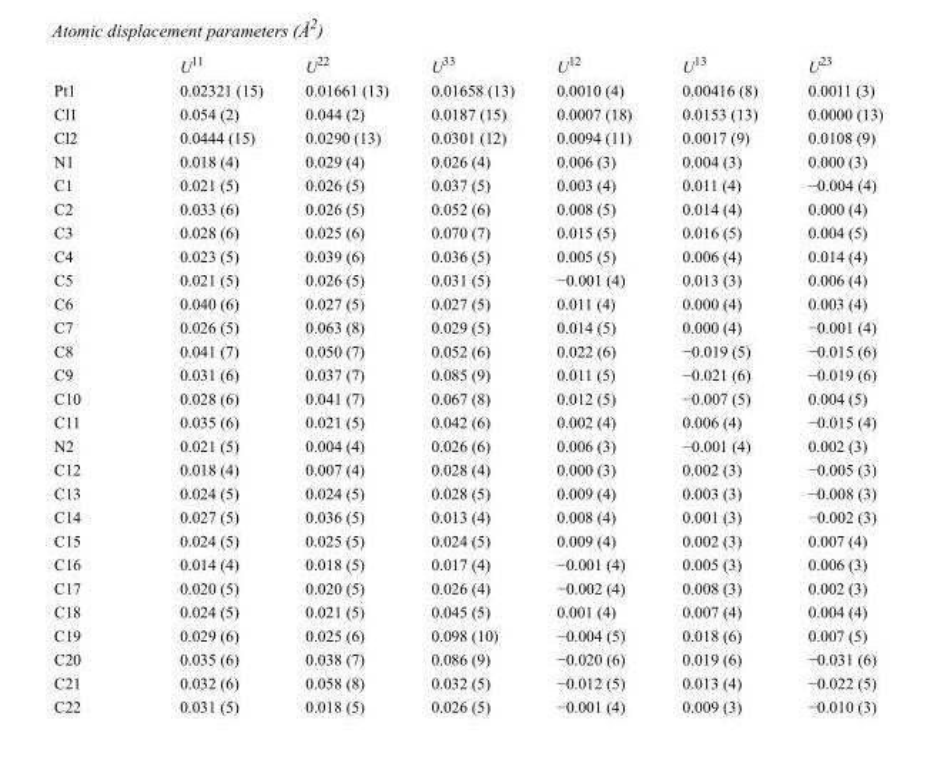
<table><thead><tr><td></td><td>U<sup>11</sup></td><td>U<sup>22</sup></td><td>U<sup>33</sup></td><td>U<sup>12</sup></td><td>U<sup>13</sup></td><td>U<sup>23</sup></td></tr></thead><tbody><tr><td>Pt1</td><td>0.02321 (15)</td><td>0.01661 (13)</td><td>0.01658 (13)</td><td>0.0010 (4)</td><td>0.00416 (8)</td><td>0.0011 (3)</td></tr><tr><td>Cl1</td><td>0.054 (2)</td><td>0.044 (2)</td><td>0.0187 (15)</td><td>0.0007 (18)</td><td>0.0153 (13)</td><td>0.0000 (13)</td></tr><tr><td>Cl2</td><td>0.0444 (15)</td><td>0.0290 (13)</td><td>0.0301 (12)</td><td>0.0094 (11)</td><td>0.0017 (9)</td><td>0.0108 (9)</td></tr><tr><td>N1</td><td>0.018 (4)</td><td>0.029 (4)</td><td>0.026 (4)</td><td>0.006 (3)</td><td>0.004 (3)</td><td>0.000 (3)</td></tr><tr><td>C1</td><td>0.021 (5)</td><td>0.026 (5)</td><td>0.037 (5)</td><td>0.003 (4)</td><td>0.011 (4)</td><td>−0.004 (4)</td></tr><tr><td>C2</td><td>0.033 (6)</td><td>0.026 (5)</td><td>0.052 (6)</td><td>0.008 (5)</td><td>0.014 (4)</td><td>0.000 (4)</td></tr><tr><td>C3</td><td>0.028 (6)</td><td>0.025 (6)</td><td>0.070 (7)</td><td>0.015 (5)</td><td>0.016 (5)</td><td>0.004 (5)</td></tr><tr><td>C4</td><td>0.023 (5)</td><td>0.039 (6)</td><td>0.036 (5)</td><td>0.005 (5)</td><td>0.006 (4)</td><td>0.014 (4)</td></tr><tr><td>C5</td><td>0.021 (5)</td><td>0.026 (5)</td><td>0.031 (5)</td><td>−0.001 (4)</td><td>0.013 (3)</td><td>0.006 (4)</td></tr><tr><td>C6</td><td>0.040 (6)</td><td>0.027 (5)</td><td>0.027 (5)</td><td>0.011 (4)</td><td>0.000 (4)</td><td>0.003 (4)</td></tr><tr><td>C7</td><td>0.026 (5)</td><td>0.063 (8)</td><td>0.029 (5)</td><td>0.014 (5)</td><td>0.000 (4)</td><td>−0.001 (4)</td></tr><tr><td>C8</td><td>0.041 (7)</td><td>0.050 (7)</td><td>0.052 (6)</td><td>0.022 (6)</td><td>−0.019 (5)</td><td>−0.015 (6)</td></tr><tr><td>C9</td><td>0.031 (6)</td><td>0.037 (7)</td><td>0.085 (9)</td><td>0.011 (5)</td><td>−0.021 (6)</td><td>−0.019 (6)</td></tr><tr><td>C10</td><td>0.028 (6)</td><td>0.041 (7)</td><td>0.067 (8)</td><td>0.012 (5)</td><td>−0.007 (5)</td><td>0.004 (5)</td></tr><tr><td>C11</td><td>0.035 (6)</td><td>0.021 (5)</td><td>0.042 (6)</td><td>0.002 (4)</td><td>0.006 (4)</td><td>−0.015 (4)</td></tr><tr><td>N2</td><td>0.021 (5)</td><td>0.004 (4)</td><td>0.026 (6)</td><td>0.006 (3)</td><td>−0.001 (4)</td><td>0.002 (3)</td></tr><tr><td>C12</td><td>0.018 (4)</td><td>0.007 (4)</td><td>0.028 (4)</td><td>0.000 (3)</td><td>0.002 (3)</td><td>−0.005 (3)</td></tr><tr><td>C13</td><td>0.024 (5)</td><td>0.024 (5)</td><td>0.028 (5)</td><td>0.009 (4)</td><td>0.003 (3)</td><td>−0.008 (3)</td></tr><tr><td>C14</td><td>0.027 (5)</td><td>0.036 (5)</td><td>0.013 (4)</td><td>0.008 (4)</td><td>0.001 (3)</td><td>−0.002 (3)</td></tr><tr><td>C15</td><td>0.024 (5)</td><td>0.025 (5)</td><td>0.024 (5)</td><td>0.009 (4)</td><td>0.002 (3)</td><td>0.007 (4)</td></tr><tr><td>C16</td><td>0.014 (4)</td><td>0.018 (5)</td><td>0.017 (4)</td><td>−0.001 (4)</td><td>0.005 (3)</td><td>0.006 (3)</td></tr><tr><td>C17</td><td>0.020 (5)</td><td>0.020 (5)</td><td>0.026 (4)</td><td>−0.002 (4)</td><td>0.008 (3)</td><td>0.002 (3)</td></tr><tr><td>C18</td><td>0.024 (5)</td><td>0.021 (5)</td><td>0.045 (5)</td><td>0.001 (4)</td><td>0.007 (4)</td><td>0.004 (4)</td></tr><tr><td>C19</td><td>0.029 (6)</td><td>0.025 (6)</td><td>0.098 (10)</td><td>−0.004 (5)</td><td>0.018 (6)</td><td>0.007 (5)</td></tr><tr><td>C20</td><td>0.035 (6)</td><td>0.038 (7)</td><td>0.086 (9)</td><td>−0.020 (6)</td><td>0.019 (6)</td><td>−0.031 (6)</td></tr><tr><td>C21</td><td>0.032 (6)</td><td>0.058 (8)</td><td>0.032 (5)</td><td>−0.012 (5)</td><td>0.013 (4)</td><td>−0.022 (5)</td></tr><tr><td>C22</td><td>0.031 (5)</td><td>0.018 (5)</td><td>0.026 (5)</td><td>−0.001 (4)</td><td>0.009 (3)</td><td>−0.010 (3)</td></tr></tbody></table>